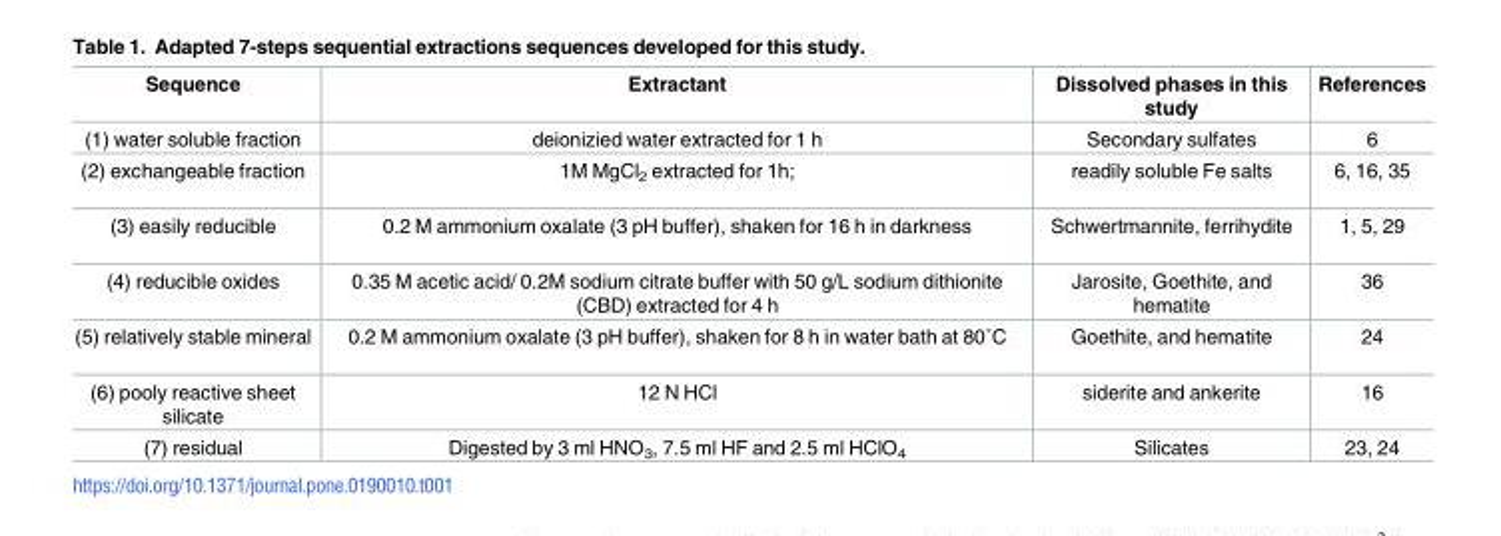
<table><thead><tr><td>Sequence</td><td>Extractant</td><td>Dissolved phases in this study</td><td>References</td></tr></thead><tbody><tr><td>(1) water soluble fraction</td><td>deionizied water extracted for 1 h</td><td>Secondary sulfates</td><td>6</td></tr><tr><td>(2) exchangeable fraction</td><td>1M MgCl<sub>2</sub> extracted for 1h;</td><td>readily soluble Fe salts</td><td>6, 16, 35</td></tr><tr><td>(3) easily reducible</td><td>0.2 M ammonium oxalate (3 pH buffer), shaken for 16 h in darkness</td><td>Schwertmannite, ferrihydite</td><td>1, 5, 29</td></tr><tr><td>(4) reducible oxides</td><td>0.35 M acetic acid/ 0.2M sodium citrate buffer with 50 g/L sodium dithionite (CBD) extracted for 4 h</td><td>Jarosite, Goethite, and hematite</td><td>36</td></tr><tr><td>(5) relatively stable mineral</td><td>0.2 M ammonium oxalate (3 pH buffer), shaken for 8 h in water bath at 80˚C</td><td>Goethite, and hematite</td><td>24</td></tr><tr><td>(6) pooly reactive sheet silicate</td><td>12 N HCl</td><td>siderite and ankerite</td><td>16</td></tr><tr><td>(7) residual</td><td>Digested by 3 ml HNO<sub>3</sub>, 7.5 ml HF and 2.5 ml HClO<sub>4</sub></td><td>Silicates</td><td>23, 24</td></tr></tbody></table>